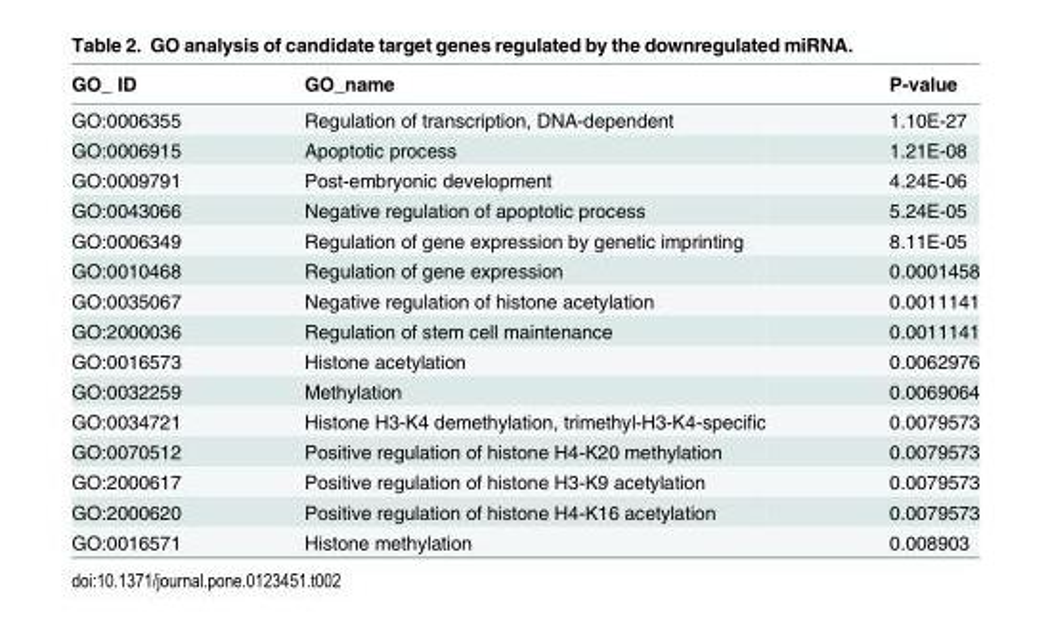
<table><thead><tr><td>GO_ ID</td><td>GO_name</td><td>P-value</td></tr></thead><tbody><tr><td>GO:0006355</td><td>Regulation of transcription, DNA-dependent</td><td>1.10E-27</td></tr><tr><td>GO:0006915</td><td>Apoptotic process</td><td>1.21E-08</td></tr><tr><td>GO:0009791</td><td>Post-embryonic development</td><td>4.24E-06</td></tr><tr><td>GO:0043066</td><td>Negative regulation of apoptotic process</td><td>5.24E-05</td></tr><tr><td>GO:0006349</td><td>Regulation of gene expression by genetic imprinting</td><td>8.11E-05</td></tr><tr><td>GO:0010468</td><td>Regulation of gene expression</td><td>0.0001458</td></tr><tr><td>GO:0035067</td><td>Negative regulation of histone acetylation</td><td>0.0011141</td></tr><tr><td>GO:2000036</td><td>Regulation of stem cell maintenance</td><td>0.0011141</td></tr><tr><td>GO:0016573</td><td>Histone acetylation</td><td>0.0062976</td></tr><tr><td>GO:0032259</td><td>Methylation</td><td>0.0069064</td></tr><tr><td>GO:0034721</td><td>Histone H3-K4 demethylation, trimethyl-H3-K4-specific</td><td>0.0079573</td></tr><tr><td>GO:0070512</td><td>Positive regulation of histone H4-K20 methylation</td><td>0.0079573</td></tr><tr><td>GO:2000617</td><td>Positive regulation of histone H3-K9 acetylation</td><td>0.0079573</td></tr><tr><td>GO:2000620</td><td>Positive regulation of histone H4-K16 acetylation</td><td>0.0079573</td></tr><tr><td>GO:0016571</td><td>Histone methylation</td><td>0.008903</td></tr></tbody></table>